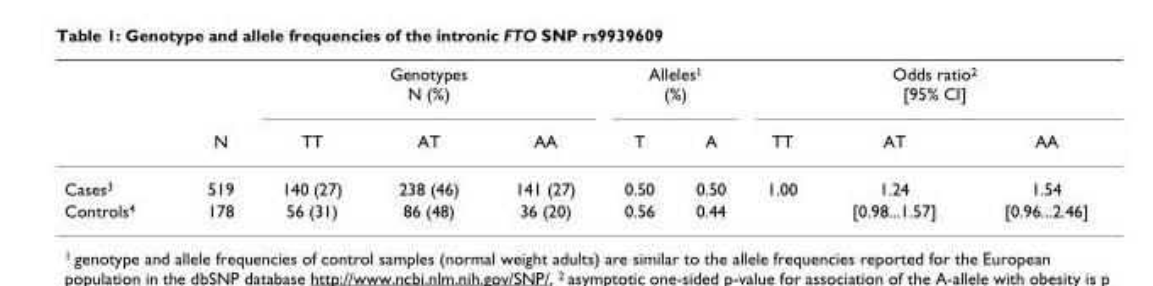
<table><thead><tr><td rowspan="2"></td><td rowspan="2">N</td><td colspan="3">Genotypes N (%)</td><td colspan="2">Alleles<sup>1</sup> (%)</td><td colspan="3">Odds ratio<sup>2</sup> [95% CI]</td></tr><tr><td>TT</td><td>AT</td><td>AA</td><td>T</td><td>A</td><td>TT</td><td>AT</td><td>AA</td></tr></thead><tbody><tr><td>Cases<sup>3</sup></td><td>519</td><td>140 (27)</td><td>238 (46)</td><td>141 (27)</td><td>0.50</td><td>0.50</td><td>1.00</td><td>1.24</td><td>1.54</td></tr><tr><td>Controls<sup>4</sup></td><td>178</td><td>56 (31)</td><td>86 (48)</td><td>36 (20)</td><td>0.56</td><td>0.44</td><td></td><td>[0.98...1.57]</td><td>[0.96...2.46]</td></tr></tbody></table>